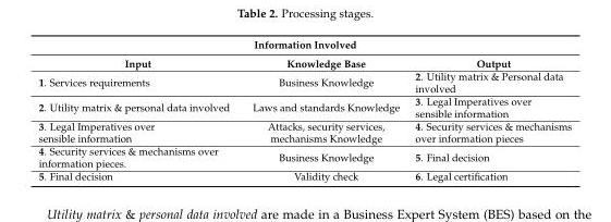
<table><thead><tr><td colspan="3">Information Involved</td></tr><tr><td>Input</td><td>Knowledge Base</td><td>Output</td></tr></thead><tbody><tr><td>1. Services requirements</td><td>Business Knowledge</td><td>2. Utility matrix &amp; Personal data involved</td></tr><tr><td>2. Utility matrix &amp; personal data involved</td><td>Laws and standards Knowledge</td><td>3. Legal Imperatives over sensible information</td></tr><tr><td>3. Legal Imperatives over sensible information</td><td>Attacks, security services, mechanisms Knowledge</td><td>4. Security services &amp; mechanisms over information pieces</td></tr><tr><td>4. Security services &amp; mechanisms over information pieces.</td><td>Business Knowledge</td><td>5. Final decision</td></tr><tr><td>5. Final decision</td><td>Validity check</td><td>6. Legal certification</td></tr></tbody></table>